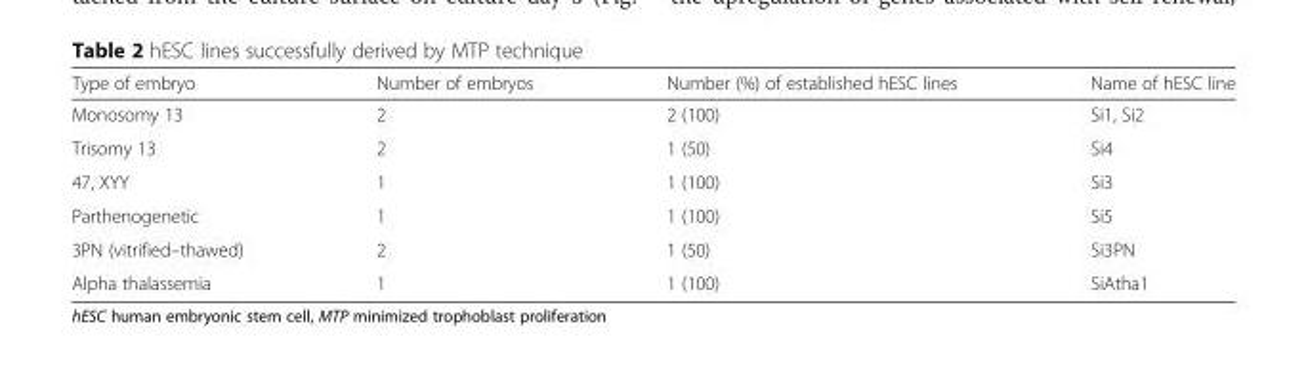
<table><thead><tr><td>Type of embryo</td><td>Number of embryos</td><td>Number (%) of established hESC lines</td><td>Name of hESC line</td></tr></thead><tbody><tr><td>Monosomy 13</td><td>2</td><td>2 (100)</td><td>Si1, Si2</td></tr><tr><td>Trisomy 13</td><td>2</td><td>1 (50)</td><td>Si4</td></tr><tr><td>47, XYY</td><td>1</td><td>1 (100)</td><td>Si3</td></tr><tr><td>Parthenogenetic</td><td>1</td><td>1 (100)</td><td>Si5</td></tr><tr><td>3PN (vitrified–thawed)</td><td>2</td><td>1 (50)</td><td>Si3PN</td></tr><tr><td>Alpha thalassemia</td><td>1</td><td>1 (100)</td><td>SiAtha1</td></tr></tbody></table>